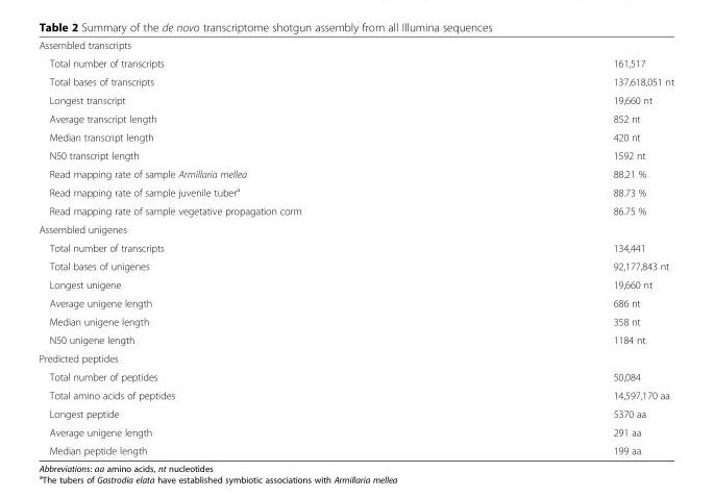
<table><tbody><tr><td colspan="2">Assembled transcripts</td></tr><tr><td>Total number of transcripts</td><td>161,517</td></tr><tr><td>Total bases of transcripts</td><td>137,618,051 nt</td></tr><tr><td>Longest transcript</td><td>19,660 nt</td></tr><tr><td>Average transcript length</td><td>852 nt</td></tr><tr><td>Median transcript length</td><td>420 nt</td></tr><tr><td>N50 transcript length</td><td>1592 nt</td></tr><tr><td>Read mapping rate of sample Armillaria mellea</td><td>88.21 %</td></tr><tr><td>Read mapping rate of sample juvenile tuber<sup>a</sup></td><td>88.73 %</td></tr><tr><td>Read mapping rate of sample vegetative propagation corm</td><td>86.75 %</td></tr><tr><td colspan="2">Assembled unigenes</td></tr><tr><td>Total number of transcripts</td><td>134,441</td></tr><tr><td>Total bases of unigenes</td><td>92,177,843 nt</td></tr><tr><td>Longest unigene</td><td>19,660 nt</td></tr><tr><td>Average unigene length</td><td>686 nt</td></tr><tr><td>Median unigene length</td><td>358 nt</td></tr><tr><td>N50 unigene length</td><td>1184 nt</td></tr><tr><td colspan="2">Predicted peptides</td></tr><tr><td>Total number of peptides</td><td>50,084</td></tr><tr><td>Total amino acids of peptides</td><td>14,597,170 aa</td></tr><tr><td>Longest peptide</td><td>5370 aa</td></tr><tr><td>Average unigene length</td><td>291 aa</td></tr><tr><td>Median peptide length</td><td>199 aa</td></tr></tbody></table>